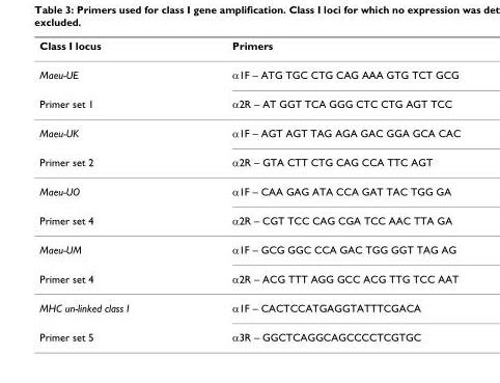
<table><thead><tr><td>Class I locus</td><td>Primers</td></tr></thead><tbody><tr><td>Maeu-UE</td><td>α1F – ATG TGC CTG CAG AAA GTG TCT GCG</td></tr><tr><td>Primer set 1</td><td>α2R – AT GGT TCA GGG CTC CTG AGT TCC</td></tr><tr><td>Maeu-UK</td><td>α1F – AGT AGT TAG AGA GAC GGA GCA CAC</td></tr><tr><td>Primer set 2</td><td>α2R – GTA CTT CTG CAG CCA TTC AGT</td></tr><tr><td>Maeu-UO</td><td>α1F – CAA GAG ATA CCA GAT TAC TGG GA</td></tr><tr><td>Primer set 4</td><td>α2R – CGT TCC CAG CGA TCC AAC TTA GA</td></tr><tr><td>Maeu-UM</td><td>α1F – GCG GGC CCA GAC TGG GGT TAG AG</td></tr><tr><td>Primer set 4</td><td>α2R – ACG TTT AGG GCC ACG TTG TCC AAT</td></tr><tr><td>MHC un-linked class I</td><td>α1F – CACTCCATGAGGTATTTCGACA</td></tr><tr><td>Primer set 5</td><td>α3R – GGCTCAGGCAGCCCCTCGTGC</td></tr></tbody></table>